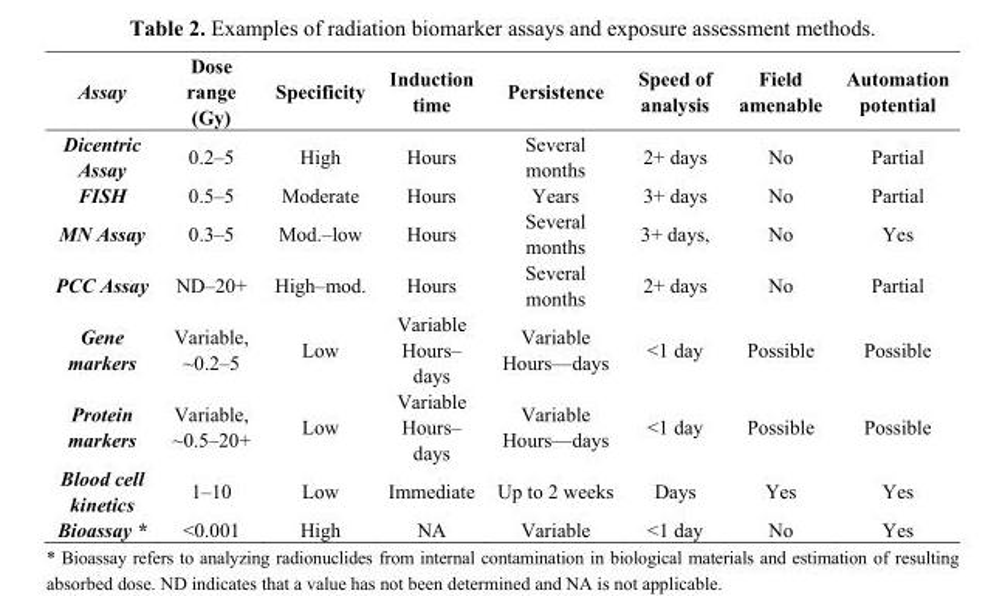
<table><thead><tr><td>Assay</td><td>Dose range (Gy)</td><td>Specificity</td><td>Induction time</td><td>Persistence</td><td>Speed of analysis</td><td>Field amenable</td><td>Automation potential</td></tr></thead><tbody><tr><td>Dicentric Assay</td><td>0.2–5</td><td>High</td><td>Hours</td><td>Several months</td><td>2+ days</td><td>No</td><td>Partial</td></tr><tr><td>FISH</td><td>0.5–5</td><td>Moderate</td><td>Hours</td><td>Years</td><td>3+ days</td><td>No</td><td>Partial</td></tr><tr><td>MN Assay</td><td>0.3–5</td><td>Mod.–low</td><td>Hours</td><td>Several months</td><td>3+ days,</td><td>No</td><td>Yes</td></tr><tr><td>PCC Assay</td><td>ND–20+</td><td>High–mod.</td><td>Hours</td><td>Several months</td><td>2+ days</td><td>No</td><td>Partial</td></tr><tr><td>Gene markers</td><td>Variable, ~0.2–5</td><td>Low</td><td>Variable Hours– days</td><td>Variable Hours—days</td><td>&lt;1 day</td><td>Possible</td><td>Possible</td></tr><tr><td>Protein markers</td><td>Variable, ~0.5–20+</td><td>Low</td><td>Variable Hours– days</td><td>Variable Hours—days</td><td>&lt;1 day</td><td>Possible</td><td>Possible</td></tr><tr><td>Blood cell kinetics</td><td>1–10</td><td>Low</td><td>Immediate</td><td>Up to 2 weeks</td><td>Days</td><td>Yes</td><td>Yes</td></tr><tr><td>Bioassay *</td><td>&lt;0.001</td><td>High</td><td>NA</td><td>Variable</td><td>&lt;1 day</td><td>No</td><td>Yes</td></tr></tbody></table>